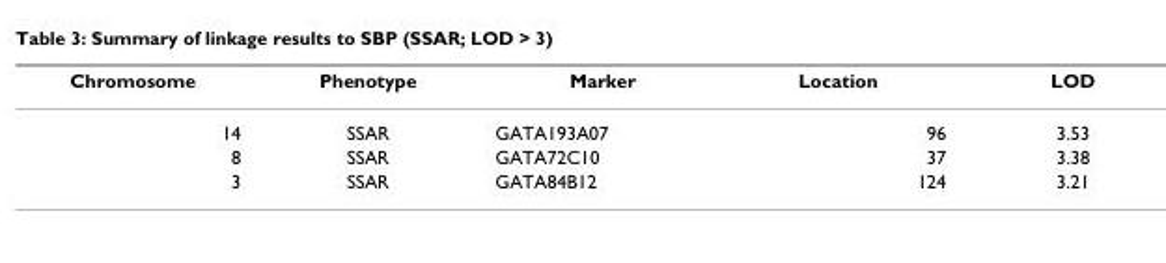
<table><thead><tr><td>Chromosome</td><td>Phenotype</td><td>Marker</td><td>Location</td><td>LOD</td></tr></thead><tbody><tr><td>14</td><td>SSAR</td><td>GATA193A07</td><td>96</td><td>3.53</td></tr><tr><td>8</td><td>SSAR</td><td>GATA72C10</td><td>37</td><td>3.38</td></tr><tr><td>3</td><td>SSAR</td><td>GATA84B12</td><td>124</td><td>3.21</td></tr></tbody></table>